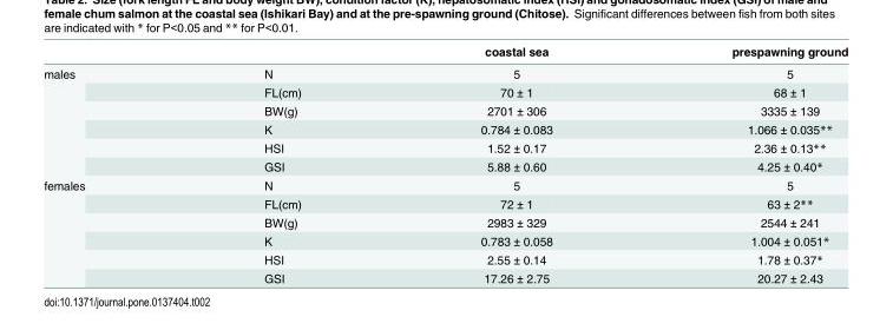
<table><thead><tr><td></td><td></td><td>coastal sea</td><td>prespawning ground</td></tr></thead><tbody><tr><td rowspan="6">males</td><td>N</td><td>5</td><td>5</td></tr><tr><td>FL(cm)</td><td>70 ± 1</td><td>68 ± 1</td></tr><tr><td>BW(g)</td><td>2701 ± 306</td><td>3335 ± 139</td></tr><tr><td>K</td><td>0.784 ± 0.083</td><td>1.066 ± 0.035**</td></tr><tr><td>HSI</td><td>1.52 ± 0.17</td><td>2.36 ± 0.13**</td></tr><tr><td>GSI</td><td>5.88 ± 0.60</td><td>4.25 ± 0.40*</td></tr><tr><td rowspan="6">females</td><td>N</td><td>5</td><td>5</td></tr><tr><td>FL(cm)</td><td>72 ± 1</td><td>63 ± 2**</td></tr><tr><td>BW(g)</td><td>2983 ± 329</td><td>2544 ± 241</td></tr><tr><td>K</td><td>0.783 ± 0.058</td><td>1.004 ± 0.051*</td></tr><tr><td>HSI</td><td>2.55 ± 0.14</td><td>1.78 ± 0.37*</td></tr><tr><td>GSI</td><td>17.26 ± 2.75</td><td>20.27 ± 2.43</td></tr></tbody></table>